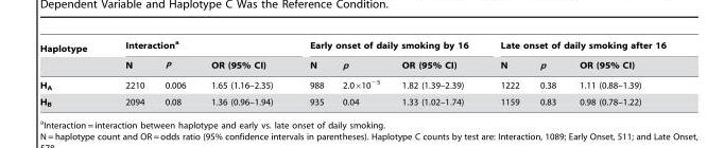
<table><thead><tr><td rowspan="2">Haplotype</td><td colspan="3">Interaction<sup>a</sup></td><td colspan="3">Early onset of daily smoking by 16</td><td colspan="3">Late onset of daily smoking after 16</td></tr><tr><td>N</td><td>P</td><td>OR (95% CI)</td><td>N</td><td>p</td><td>OR (95% CI)</td><td>N</td><td>p</td><td>OR (95% CI)</td></tr></thead><tbody><tr><td>H<sub>A</sub></td><td>2210</td><td>0.006</td><td>1.65 (1.16–2.35)</td><td>988</td><td>2.0×10<sup>−5</sup></td><td>1.82 (1.39–2.39)</td><td>1222</td><td>0.38</td><td>1.11 (0.88–1.39)</td></tr><tr><td>H<sub>B</sub></td><td>2094</td><td>0.08</td><td>1.36 (0.96–1.94)</td><td>935</td><td>0.04</td><td>1.33 (1.02–1.74)</td><td>1159</td><td>0.83</td><td>0.98 (0.78–1.22)</td></tr></tbody></table>